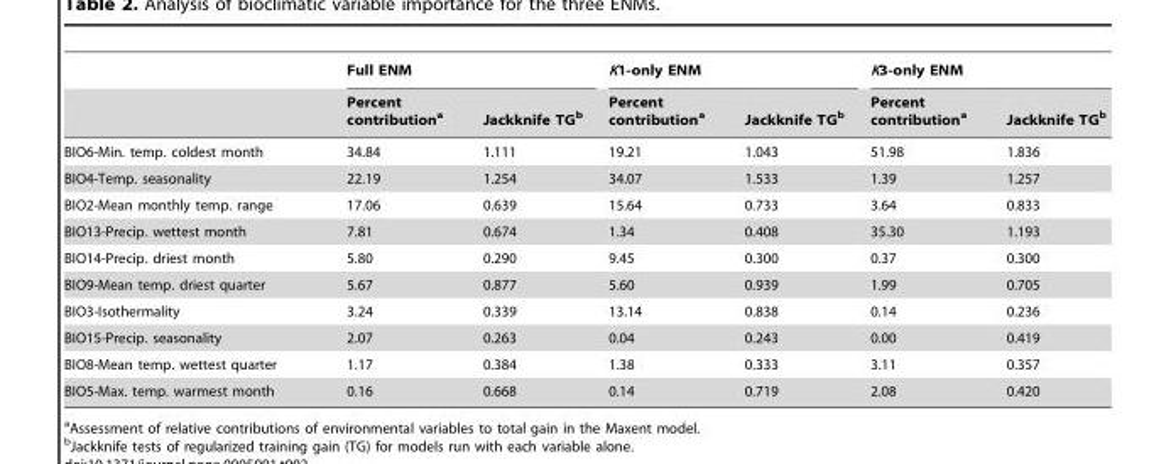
<table><thead><tr><td rowspan="2"></td><td colspan="2">Full ENM</td><td colspan="2">K1-only ENM</td><td colspan="2">K3-only ENM</td></tr><tr><td>Percent contribution<sup>a</sup></td><td>Jackknife TG<sup>b</sup></td><td>Percent contribution<sup>a</sup></td><td>Jackknife TG<sup>b</sup></td><td>Percent contribution<sup>a</sup></td><td>Jackknife TG<sup>b</sup></td></tr></thead><tbody><tr><td>BIO6-Min. temp. coldest month</td><td>34.84</td><td>1.111</td><td>19.21</td><td>1.043</td><td>51.98</td><td>1.836</td></tr><tr><td>BIO4-Temp. seasonality</td><td>22.19</td><td>1.254</td><td>34.07</td><td>1.533</td><td>1.39</td><td>1.257</td></tr><tr><td>BIO2-Mean monthly temp. range</td><td>17.06</td><td>0.639</td><td>15.64</td><td>0.733</td><td>3.64</td><td>0.833</td></tr><tr><td>BIO13-Precip. wettest month</td><td>7.81</td><td>0.674</td><td>1.34</td><td>0.408</td><td>35.30</td><td>1.193</td></tr><tr><td>BIO14-Precip. driest month</td><td>5.80</td><td>0.290</td><td>9.45</td><td>0.300</td><td>0.37</td><td>0.300</td></tr><tr><td>BIO9-Mean temp. driest quarter</td><td>5.67</td><td>0.877</td><td>5.60</td><td>0.939</td><td>1.99</td><td>0.705</td></tr><tr><td>BIO3-Isothermality</td><td>3.24</td><td>0.339</td><td>13.14</td><td>0.838</td><td>0.14</td><td>0.236</td></tr><tr><td>BIO15-Precip. seasonality</td><td>2.07</td><td>0.263</td><td>0.04</td><td>0.243</td><td>0.00</td><td>0.419</td></tr><tr><td>BIO8-Mean temp. wettest quarter</td><td>1.17</td><td>0.384</td><td>1.38</td><td>0.333</td><td>3.11</td><td>0.357</td></tr><tr><td>BIO5-Max. temp. warmest month</td><td>0.16</td><td>0.668</td><td>0.14</td><td>0.719</td><td>2.08</td><td>0.420</td></tr></tbody></table>